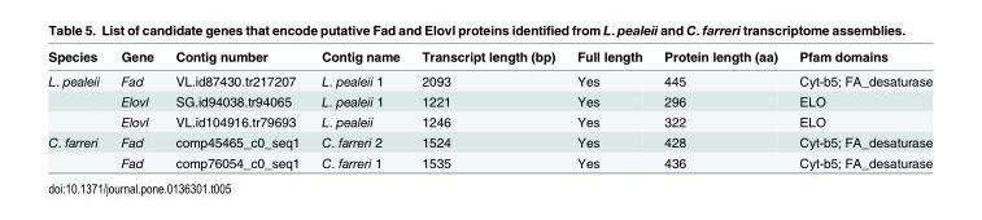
<table><thead><tr><td>Species</td><td>Gene</td><td>Contig number</td><td>Contig name</td><td>Transcript length (bp)</td><td>Full length</td><td>Protein length (aa)</td><td>Pfam domains</td></tr></thead><tbody><tr><td rowspan="3">L. pealeii</td><td>Fad</td><td>VL.id87430.tr217207</td><td>L. pealeii 1</td><td>2093</td><td>Yes</td><td>445</td><td>Cyt-b5; FA_desaturase</td></tr><tr><td>Elovl</td><td>SG.id94038.tr94065</td><td>L. pealeii 1</td><td>1221</td><td>Yes</td><td>296</td><td>ELO</td></tr><tr><td>Elovl</td><td>VL.id104916.tr79693</td><td>L. pealeii</td><td>1246</td><td>Yes</td><td>322</td><td>ELO</td></tr><tr><td rowspan="2">C. farreri</td><td>Fad</td><td>comp45465_c0_seq1</td><td>C. farreri 2</td><td>1524</td><td>Yes</td><td>428</td><td>Cyt-b5; FA_desaturase</td></tr><tr><td>Fad</td><td>comp76054_c0_seq1</td><td>C. farreri 1</td><td>1535</td><td>Yes</td><td>436</td><td>Cyt-b5; FA_desaturase</td></tr></tbody></table>